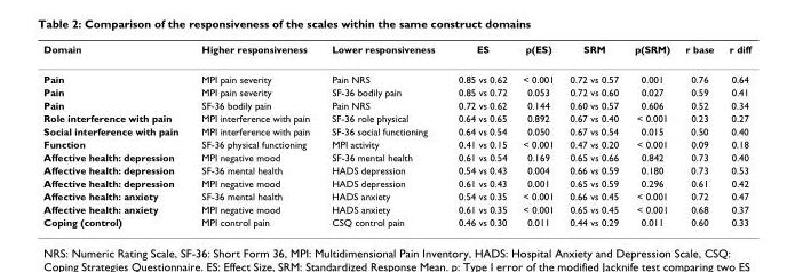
<table><thead><tr><td>Domain</td><td>Higher responsiveness</td><td>Lower responsiveness</td><td>ES</td><td>p(ES)</td><td>SRM</td><td>p(SRM)</td><td>r base</td><td>r diff</td></tr></thead><tbody><tr><td>Pain</td><td>MPI pain severity</td><td>Pain NRS</td><td>0.85 vs 0.62</td><td>&lt; 0.001</td><td>0.72 vs 0.57</td><td>0.001</td><td>0.76</td><td>0.64</td></tr><tr><td>Pain</td><td>MPI pain severity</td><td>SF-36 bodily pain</td><td>0.85 vs 0.72</td><td>0.053</td><td>0.72 vs 0.60</td><td>0.027</td><td>0.59</td><td>0.41</td></tr><tr><td>Pain</td><td>SF-36 bodily pain</td><td>Pain NRS</td><td>0.72 vs 0.62</td><td>0.144</td><td>0.60 vs 0.57</td><td>0.606</td><td>0.52</td><td>0.34</td></tr><tr><td>Role interference with pain</td><td>MPI interference with pain</td><td>SF-36 role physical</td><td>0.64 vs 0.65</td><td>0.892</td><td>0.67 vs 0.40</td><td>&lt; 0.001</td><td>0.23</td><td>0.27</td></tr><tr><td>Social interference with pain</td><td>MPI interference with pain</td><td>SF-36 social functioning</td><td>0.64 vs 0.54</td><td>0.050</td><td>0.67 vs 0.54</td><td>0.015</td><td>0.50</td><td>0.40</td></tr><tr><td>Function</td><td>SF-36 physical functioning</td><td>MPI activity</td><td>0.41 vs 0.15</td><td>&lt; 0.001</td><td>0.47 vs 0.20</td><td>&lt; 0.001</td><td>0.09</td><td>0.18</td></tr><tr><td>Affective health: depression</td><td>MPI negative mood</td><td>SF-36 mental health</td><td>0.61 vs 0.54</td><td>0.169</td><td>0.65 vs 0.66</td><td>0.842</td><td>0.73</td><td>0.40</td></tr><tr><td>Affective health: depression</td><td>SF-36 mental health</td><td>HADS depression</td><td>0.54 vs 0.43</td><td>0.004</td><td>0.66 vs 0.59</td><td>0.180</td><td>0.73</td><td>0.53</td></tr><tr><td>Affective health: depression</td><td>MPI negative mood</td><td>HADS depression</td><td>0.61 vs 0.43</td><td>0.001</td><td>0.65 vs 0.59</td><td>0.296</td><td>0.61</td><td>0.42</td></tr><tr><td>Affective health: anxiety</td><td>SF-36 mental health</td><td>HADS anxiety</td><td>0.54 vs 0.35</td><td>&lt; 0.001</td><td>0.66 vs 0.45</td><td>&lt; 0.001</td><td>0.72</td><td>0.47</td></tr><tr><td>Affective health: anxiety</td><td>MPI negative mood</td><td>HADS anxiety</td><td>0.61 vs 0.35</td><td>&lt; 0.001</td><td>0.65 vs 0.45</td><td>&lt; 0.001</td><td>0.68</td><td>0.37</td></tr><tr><td>Coping (control)</td><td>MPI control pain</td><td>CSQ control pain</td><td>0.46 vs 0.30</td><td>0.011</td><td>0.44 vs 0.29</td><td>0.011</td><td>0.60</td><td>0.33</td></tr></tbody></table>